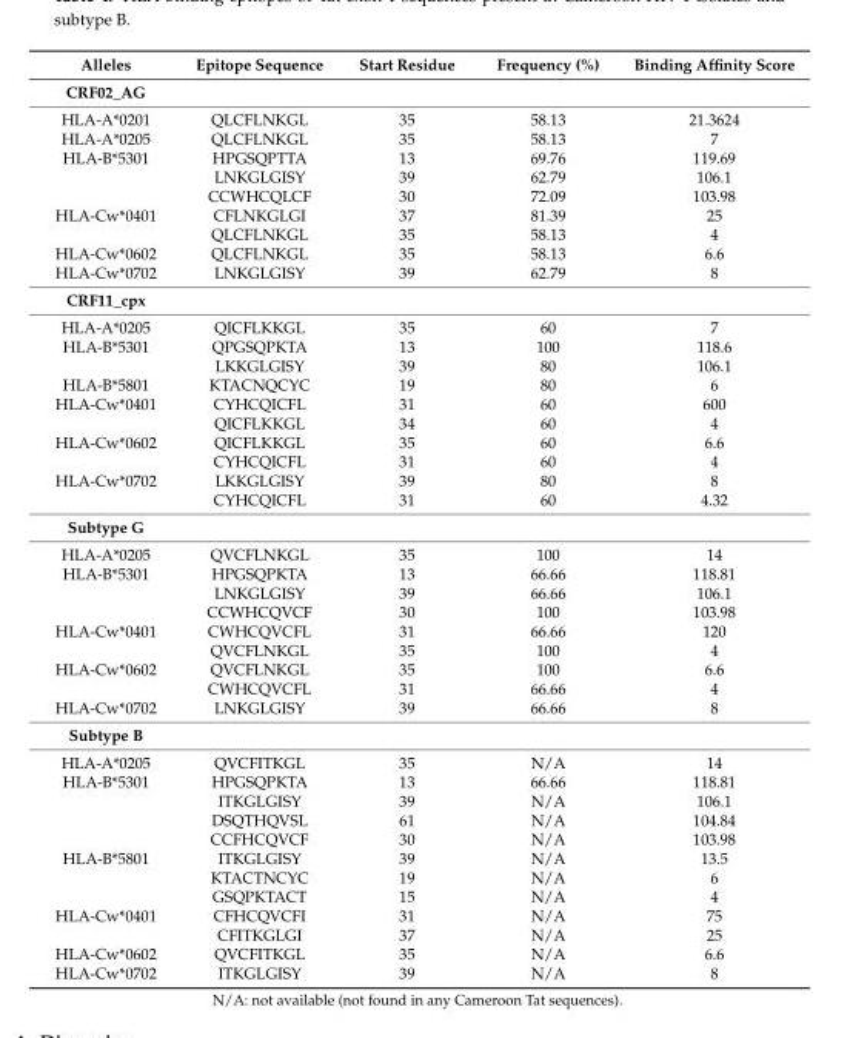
<table><thead><tr><td>Alleles</td><td>Epitope Sequence</td><td>Start Residue</td><td>Frequency (%)</td><td>Binding Affinity Score</td></tr></thead><tbody><tr><td colspan="5">CRF02_AG</td></tr><tr><td>HLA-A*0201</td><td>QLCFLNKGL</td><td>35</td><td>58.13</td><td>21.3624</td></tr><tr><td>HLA-A*0205</td><td>QLCFLNKGL</td><td>35</td><td>58.13</td><td>7</td></tr><tr><td rowspan="3">HLA-B*5301</td><td>HPGSQPTTA</td><td>13</td><td>69.76</td><td>119.69</td></tr><tr><td>LNKGLGISY</td><td>39</td><td>62.79</td><td>106.1</td></tr><tr><td>CCWHCQLCF</td><td>30</td><td>72.09</td><td>103.98</td></tr><tr><td rowspan="2">HLA-Cw*0401</td><td>CFLNKGLGI</td><td>37</td><td>81.39</td><td>25</td></tr><tr><td>QLCFLNKGL</td><td>35</td><td>58.13</td><td>4</td></tr><tr><td>HLA-Cw*0602</td><td>QLCFLNKGL</td><td>35</td><td>58.13</td><td>6.6</td></tr><tr><td>HLA-Cw*0702</td><td>LNKGLGISY</td><td>39</td><td>62.79</td><td>8</td></tr><tr><td colspan="5">CRF11_cpx</td></tr><tr><td>HLA-A*0205</td><td>QICFLKKGL</td><td>35</td><td>60</td><td>7</td></tr><tr><td rowspan="2">HLA-B*5301</td><td>QPGSQPKTA</td><td>13</td><td>100</td><td>118.6</td></tr><tr><td>LKKGLGISY</td><td>39</td><td>80</td><td>106.1</td></tr><tr><td>HLA-B*5801</td><td>KTACNQCYC</td><td>19</td><td>80</td><td>6</td></tr><tr><td rowspan="2">HLA-Cw*0401</td><td>CYHCQICFL</td><td>31</td><td>60</td><td>600</td></tr><tr><td>QICFLKKGL</td><td>34</td><td>60</td><td>4</td></tr><tr><td rowspan="2">HLA-Cw*0602</td><td>QICFLKKGL</td><td>35</td><td>60</td><td>6.6</td></tr><tr><td>CYHCQICFL</td><td>31</td><td>60</td><td>4</td></tr><tr><td rowspan="2">HLA-Cw*0702</td><td>LKKGLGISY</td><td>39</td><td>80</td><td>8</td></tr><tr><td>CYHCQICFL</td><td>31</td><td>60</td><td>4.32</td></tr><tr><td colspan="5">Subtype G</td></tr><tr><td>HLA-A*0205</td><td>QVCFLNKGL</td><td>35</td><td>100</td><td>14</td></tr><tr><td rowspan="3">HLA-B*5301</td><td>HPGSQPKTA</td><td>13</td><td>66.66</td><td>118.81</td></tr><tr><td>LNKGLGISY</td><td>39</td><td>66.66</td><td>106.1</td></tr><tr><td>CCWHCQVCF</td><td>30</td><td>100</td><td>103.98</td></tr><tr><td rowspan="2">HLA-Cw*0401</td><td>CWHCQVCFL</td><td>31</td><td>66.66</td><td>120</td></tr><tr><td>QVCFLNKGL</td><td>35</td><td>100</td><td>4</td></tr><tr><td rowspan="2">HLA-Cw*0602</td><td>QVCFLNKGL</td><td>35</td><td>100</td><td>6.6</td></tr><tr><td>CWHCQVCFL</td><td>31</td><td>66.66</td><td>4</td></tr><tr><td>HLA-Cw*0702</td><td>LNKGLGISY</td><td>39</td><td>66.66</td><td>8</td></tr><tr><td colspan="5">Subtype B</td></tr><tr><td>HLA-A*0205</td><td>QVCFITKGL</td><td>35</td><td>N/A</td><td>14</td></tr><tr><td rowspan="4">HLA-B*5301</td><td>HPGSQPKTA</td><td>13</td><td>66.66</td><td>118.81</td></tr><tr><td>ITKGLGISY</td><td>39</td><td>N/A</td><td>106.1</td></tr><tr><td>DSQTHQVSL</td><td>61</td><td>N/A</td><td>104.84</td></tr><tr><td>CCFHCQVCF</td><td>30</td><td>N/A</td><td>103.98</td></tr><tr><td rowspan="3">HLA-B*5801</td><td>ITKGLGISY</td><td>39</td><td>N/A</td><td>13.5</td></tr><tr><td>KTACTNCYC</td><td>19</td><td>N/A</td><td>6</td></tr><tr><td>GSQPKTACT</td><td>15</td><td>N/A</td><td>4</td></tr><tr><td rowspan="2">HLA-Cw*0401</td><td>CFHCQVCFI</td><td>31</td><td>N/A</td><td>75</td></tr><tr><td>CFITKGLGI</td><td>37</td><td>N/A</td><td>25</td></tr><tr><td>HLA-Cw*0602</td><td>QVCFITKGL</td><td>35</td><td>N/A</td><td>6.6</td></tr><tr><td>HLA-Cw*0702</td><td>ITKGLGISY</td><td>39</td><td>N/A</td><td>8</td></tr></tbody></table>